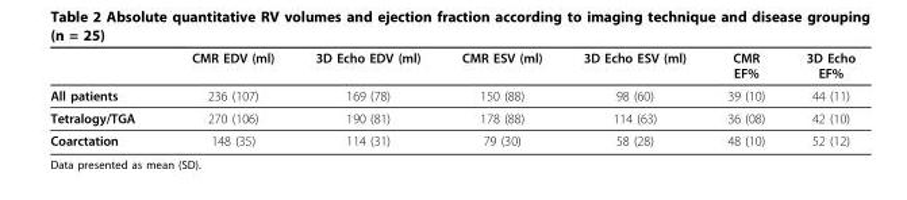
<table><thead><tr><td></td><td>CMR EDV (ml)</td><td>3D Echo EDV (ml)</td><td>CMR ESV (ml)</td><td>3D Echo ESV (ml)</td><td>CMR EF%</td><td>3D Echo EF%</td></tr></thead><tbody><tr><td>All patients</td><td>236 (107)</td><td>169 (78)</td><td>150 (88)</td><td>98 (60)</td><td>39 (10)</td><td>44 (11)</td></tr><tr><td>Tetralogy/TGA</td><td>270 (106)</td><td>190 (81)</td><td>178 (88)</td><td>114 (63)</td><td>36 (08)</td><td>42 (10)</td></tr><tr><td>Coarctation</td><td>148 (35)</td><td>114 (31)</td><td>79 (30)</td><td>58 (28)</td><td>48 (10)</td><td>52 (12)</td></tr></tbody></table>